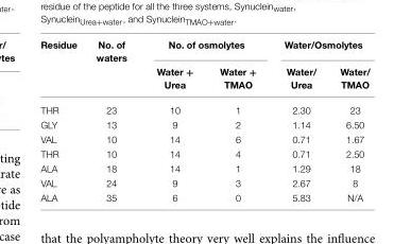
<table><thead><tr><td rowspan="2">Residue</td><td rowspan="2">No. of waters</td><td colspan="2">No. of osmolytes</td><td colspan="2">Water/Osmolytes</td></tr><tr><td>Water + Urea</td><td>Water + TMAO</td><td>Water/ Urea</td><td>Water/ TMAO</td></tr></thead><tbody><tr><td>THR</td><td>23</td><td>10</td><td>1</td><td>2.30</td><td>23</td></tr><tr><td>GLY</td><td>13</td><td>9</td><td>2</td><td>1.14</td><td>6.50</td></tr><tr><td>VAL</td><td>10</td><td>14</td><td>6</td><td>0.71</td><td>1.67</td></tr><tr><td>THR</td><td>10</td><td>14</td><td>4</td><td>0.71</td><td>2.50</td></tr><tr><td>ALA</td><td>18</td><td>14</td><td>1</td><td>1.29</td><td>18</td></tr><tr><td>VAL</td><td>24</td><td>9</td><td>3</td><td>2.67</td><td>8</td></tr><tr><td>ALA</td><td>35</td><td>6</td><td>0</td><td>5.83</td><td>N/A</td></tr></tbody></table>